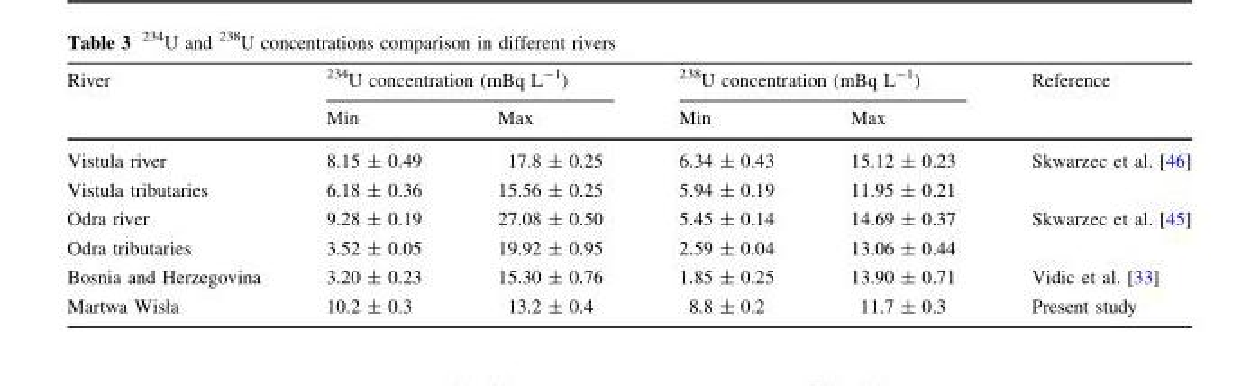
<table><thead><tr><td rowspan="2">River</td><td colspan="2"><sup>234</sup>U concentration (mBq L<sup>-1</sup>)</td><td colspan="2"><sup>238</sup>U concentration (mBq L<sup>-1</sup>)</td><td rowspan="2">Reference</td></tr><tr><td>Min</td><td>Max</td><td>Min</td><td>Max</td></tr></thead><tbody><tr><td>Vistula river</td><td>8.15 ± 0.49</td><td>17.8 ± 0.25</td><td>6.34 ± 0.43</td><td>15.12 ± 0.23</td><td rowspan="2">Skwarzec et al. [46]</td></tr><tr><td>Vistula tributaries</td><td>6.18 ± 0.36</td><td>15.56 ± 0.25</td><td>5.94 ± 0.19</td><td>11.95 ± 0.21</td></tr><tr><td>Odra river</td><td>9.28 ± 0.19</td><td>27.08 ± 0.50</td><td>5.45 ± 0.14</td><td>14.69 ± 0.37</td><td rowspan="2">Skwarzec et al. [45]</td></tr><tr><td>Odra tributaries</td><td>3.52 ± 0.05</td><td>19.92 ± 0.95</td><td>2.59 ± 0.04</td><td>13.06 ± 0.44</td></tr><tr><td>Bosnia and Herzegovina</td><td>3.20 ± 0.23</td><td>15.30 ± 0.76</td><td>1.85 ± 0.25</td><td>13.90 ± 0.71</td><td>Vidic et al. [33]</td></tr><tr><td>Martwa Wisła</td><td>10.2 ± 0.3</td><td>13.2 ± 0.4</td><td>8.8 ± 0.2</td><td>11.7 ± 0.3</td><td>Present study</td></tr></tbody></table>